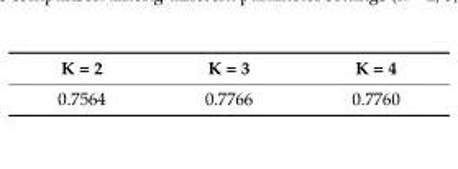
<table><thead><tr><td>K = 2</td><td>K = 3</td><td>K = 4</td></tr></thead><tbody><tr><td>0.7564</td><td>0.7766</td><td>0.7760</td></tr></tbody></table>